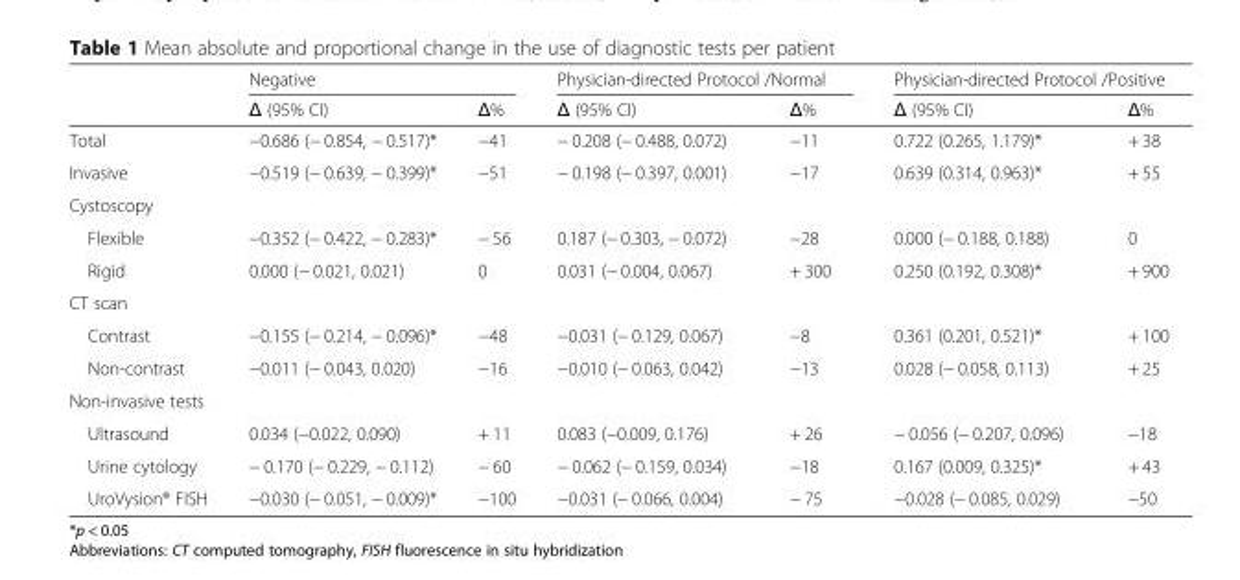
<table><thead><tr><td rowspan="2"></td><td colspan="2">Negative</td><td colspan="2">Physician-directed Protocol /Normal</td><td colspan="2">Physician-directed Protocol /Positive</td></tr><tr><td>Δ (95% CI)</td><td>Δ%</td><td>Δ (95% CI)</td><td>Δ%</td><td>Δ (95% CI)</td><td>Δ%</td></tr></thead><tbody><tr><td>Total</td><td>−0.686 (− 0.854, − 0.517)*</td><td>−41</td><td>− 0.208 (− 0.488, 0.072)</td><td>−11</td><td>0.722 (0.265, 1.179)*</td><td>+ 38</td></tr><tr><td>Invasive</td><td>−0.519 (− 0.639, − 0.399)*</td><td>−51</td><td>− 0.198 (− 0.397, 0.001)</td><td>−17</td><td>0.639 (0.314, 0.963)*</td><td>+ 55</td></tr><tr><td colspan="7">Cystoscopy</td></tr><tr><td>Flexible</td><td>−0.352 (− 0.422, − 0.283)*</td><td>− 56</td><td>0.187 (− 0.303, − 0.072)</td><td>−28</td><td>0.000 (− 0.188, 0.188)</td><td>0</td></tr><tr><td>Rigid</td><td>0.000 (− 0.021, 0.021)</td><td>0</td><td>0.031 (− 0.004, 0.067)</td><td>+ 300</td><td>0.250 (0.192, 0.308)*</td><td>+ 900</td></tr><tr><td colspan="7">CT scan</td></tr><tr><td>Contrast</td><td>−0.155 (− 0.214, − 0.096)*</td><td>−48</td><td>−0.031 (− 0.129, 0.067)</td><td>−8</td><td>0.361 (0.201, 0.521)*</td><td>+ 100</td></tr><tr><td>Non-contrast</td><td>−0.011 (− 0.043, 0.020)</td><td>−16</td><td>−0.010 (− 0.063, 0.042)</td><td>−13</td><td>0.028 (− 0.058, 0.113)</td><td>+ 25</td></tr><tr><td colspan="7">Non-invasive tests</td></tr><tr><td>Ultrasound</td><td>0.034 (−0.022, 0.090)</td><td>+ 11</td><td>0.083 (−0.009, 0.176)</td><td>+ 26</td><td>− 0.056 (− 0.207, 0.096)</td><td>−18</td></tr><tr><td>Urine cytology</td><td>− 0.170 (− 0.229, − 0.112)</td><td>− 60</td><td>− 0.062 (− 0.159, 0.034)</td><td>−18</td><td>0.167 (0.009, 0.325)*</td><td>+ 43</td></tr><tr><td>UroVysion® FISH</td><td>−0.030 (− 0.051, − 0.009)*</td><td>−100</td><td>−0.031 (− 0.066, 0.004)</td><td>− 75</td><td>−0.028 (− 0.085, 0.029)</td><td>−50</td></tr></tbody></table>